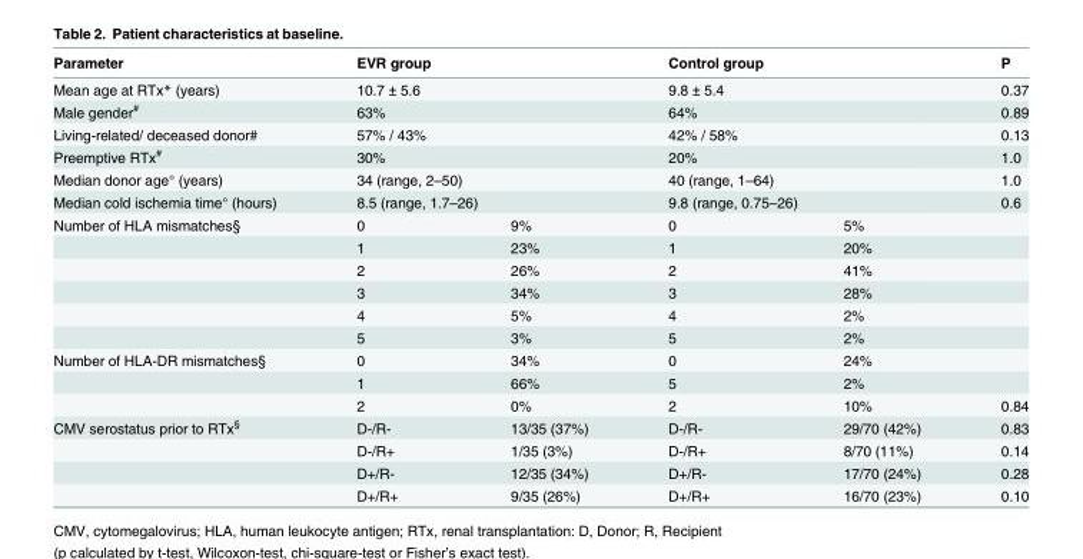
<table><thead><tr><td>Parameter</td><td>EVR group</td><td></td><td>Control group</td><td></td><td>P</td></tr></thead><tbody><tr><td>Mean age at RTx* (years)</td><td colspan="2">10.7 ± 5.6</td><td colspan="2">9.8 ± 5.4</td><td>0.37</td></tr><tr><td>Male gender<sup>#</sup></td><td colspan="2">63%</td><td colspan="2">64%</td><td>0.89</td></tr><tr><td>Living-related/ deceased donor#</td><td colspan="2">57% / 43%</td><td colspan="2">42% / 58%</td><td>0.13</td></tr><tr><td>Preemptive RTx<sup>#</sup></td><td colspan="2">30%</td><td colspan="2">20%</td><td>1.0</td></tr><tr><td>Median donor age° (years)</td><td colspan="2">34 (range, 2–50)</td><td colspan="2">40 (range, 1–64)</td><td>1.0</td></tr><tr><td>Median cold ischemia time° (hours)</td><td colspan="2">8.5 (range, 1.7–26)</td><td colspan="2">9.8 (range, 0.75–26)</td><td>0.6</td></tr><tr><td rowspan="6">Number of HLA mismatches§</td><td>0</td><td>9%</td><td>0</td><td>5%</td><td></td></tr><tr><td>1</td><td>23%</td><td>1</td><td>20%</td><td></td></tr><tr><td>2</td><td>26%</td><td>2</td><td>41%</td><td></td></tr><tr><td>3</td><td>34%</td><td>3</td><td>28%</td><td></td></tr><tr><td>4</td><td>5%</td><td>4</td><td>2%</td><td></td></tr><tr><td>5</td><td>3%</td><td>5</td><td>2%</td><td></td></tr><tr><td rowspan="3">Number of HLA-DR mismatches§</td><td>0</td><td>34%</td><td>0</td><td>24%</td><td></td></tr><tr><td>1</td><td>66%</td><td>5</td><td>2%</td><td></td></tr><tr><td>2</td><td>0%</td><td>2</td><td>10%</td><td>0.84</td></tr><tr><td rowspan="4">CMV serostatus prior to RTx<sup>§</sup></td><td>D-/R-</td><td>13/35 (37%)</td><td>D-/R-</td><td>29/70 (42%)</td><td>0.83</td></tr><tr><td>D-/R+</td><td>1/35 (3%)</td><td>D-/R+</td><td>8/70 (11%)</td><td>0.14</td></tr><tr><td>D+/R-</td><td>12/35 (34%)</td><td>D+/R-</td><td>17/70 (24%)</td><td>0.28</td></tr><tr><td>D+/R+</td><td>9/35 (26%)</td><td>D+/R+</td><td>16/70 (23%)</td><td>0.10</td></tr></tbody></table>